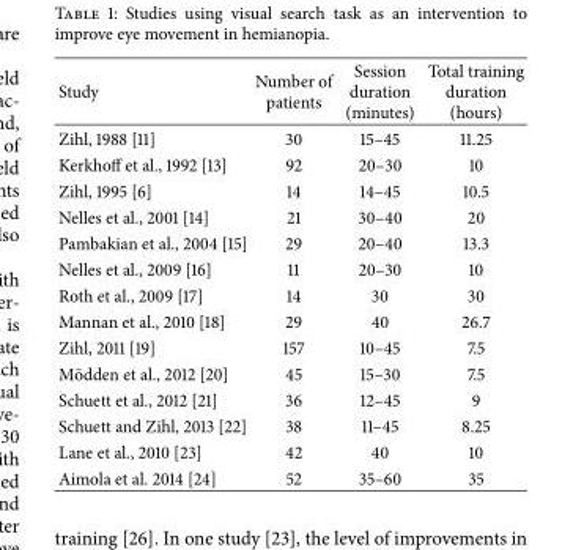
<table><thead><tr><td>Study</td><td>Number of patients</td><td>Session duration (minutes)</td><td>Total training duration (hours)</td></tr></thead><tbody><tr><td>Zihl, 1988 [11]</td><td>30</td><td>15–45</td><td>11.25</td></tr><tr><td>Kerkhoff et al., 1992 [13]</td><td>92</td><td>20–30</td><td>10</td></tr><tr><td>Zihl, 1995 [6]</td><td>14</td><td>14–45</td><td>10.5</td></tr><tr><td>Nelles et al., 2001 [14]</td><td>21</td><td>30–40</td><td>20</td></tr><tr><td>Pambakian et al., 2004 [15]</td><td>29</td><td>20–40</td><td>13.3</td></tr><tr><td>Nelles et al., 2009 [16]</td><td>11</td><td>20–30</td><td>10</td></tr><tr><td>Roth et al., 2009 [17]</td><td>14</td><td>30</td><td>30</td></tr><tr><td>Mannan et al., 2010 [18]</td><td>29</td><td>40</td><td>26.7</td></tr><tr><td>Zihl, 2011 [19]</td><td>157</td><td>10–45</td><td>7.5</td></tr><tr><td>M¨odden et al., 2012 [20]</td><td>45</td><td>15–30</td><td>7.5</td></tr><tr><td>Schuett et al., 2012 [21]</td><td>36</td><td>12–45</td><td>9</td></tr><tr><td>Schuett and Zihl, 2013 [22]</td><td>38</td><td>11–45</td><td>8.25</td></tr><tr><td>Lane et al., 2010 [23]</td><td>42</td><td>40</td><td>10</td></tr><tr><td>Aimola et al. 2014 [24]</td><td>52</td><td>35–60</td><td>35</td></tr></tbody></table>